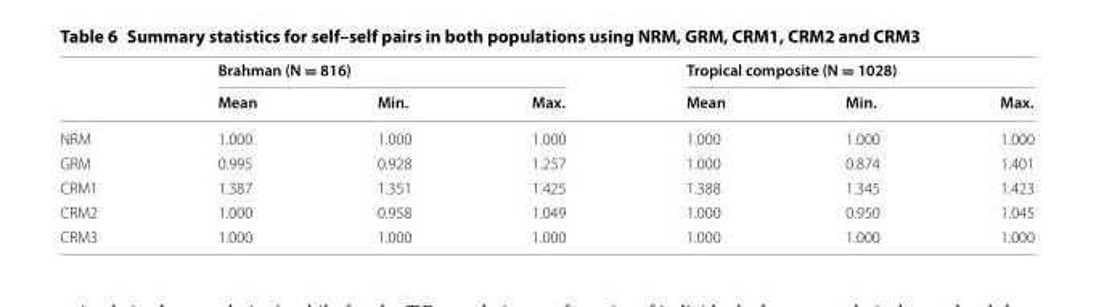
<table><thead><tr><td rowspan="2"></td><td colspan="3">Brahman (N = 816)</td><td colspan="3">Tropical composite (N = 1028)</td></tr><tr><td>Mean</td><td>Min.</td><td>Max.</td><td>Mean</td><td>Min.</td><td>Max.</td></tr></thead><tbody><tr><td>NRM</td><td>1.000</td><td>1.000</td><td>1.000</td><td>1.000</td><td>1.000</td><td>1.000</td></tr><tr><td>GRM</td><td>0.995</td><td>0.928</td><td>1.257</td><td>1.000</td><td>0.874</td><td>1.401</td></tr><tr><td>CRM1</td><td>1.387</td><td>1.351</td><td>1.425</td><td>1.388</td><td>1.345</td><td>1.423</td></tr><tr><td>CRM2</td><td>1.000</td><td>0.958</td><td>1.049</td><td>1.000</td><td>0.950</td><td>1.045</td></tr><tr><td>CRM3</td><td>1.000</td><td>1.000</td><td>1.000</td><td>1.000</td><td>1.000</td><td>1.000</td></tr></tbody></table>